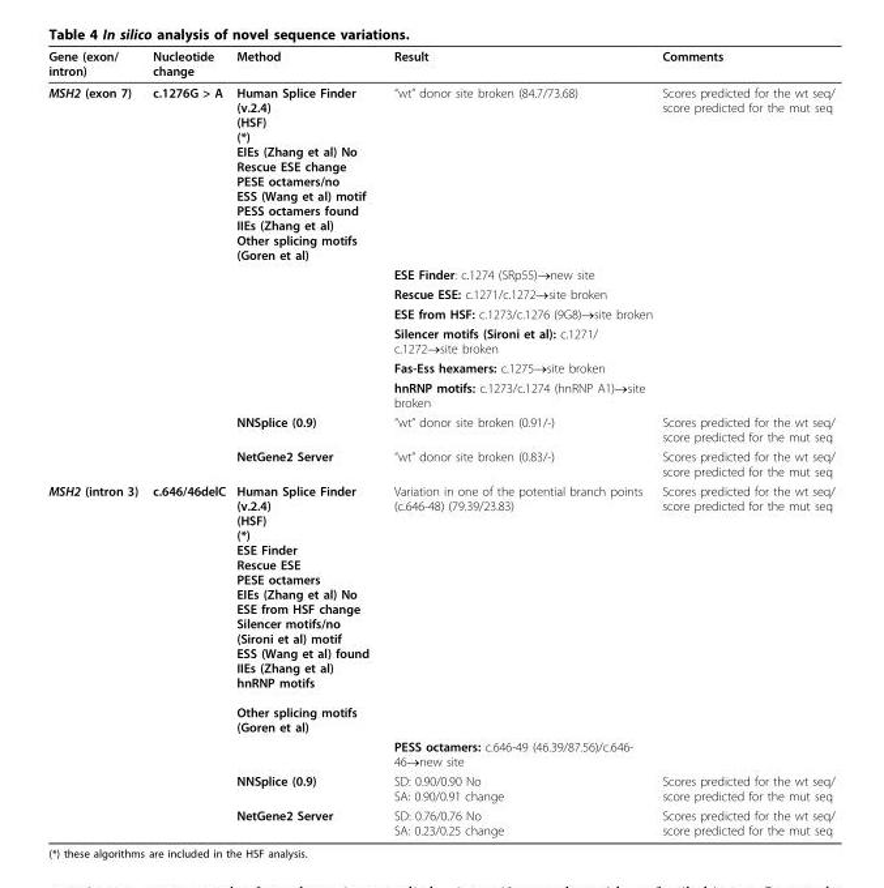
<table><thead><tr><td>Gene (exon/ intron)</td><td>Nucleotide change</td><td>Method</td><td>Result</td><td>Comments</td></tr></thead><tbody><tr><td rowspan="9">MSH2 (exon 7)</td><td>c.1276G &gt; A</td><td>Human Splice Finder (v.2.4) (HSF) (*) EIEs (Zhang et al) No Rescue ESE change PESE octamers/no ESS (Wang et al) motif PESS octamers found IIEs (Zhang et al) Other splicing motifs (Goren et al)</td><td>“wt” donor site broken (84.7/73.68)</td><td>Scores predicted for the wt seq/ score predicted for the mut seq</td></tr><tr><td></td><td></td><td>ESE Finder: c.1274 (SRp55)→new site</td><td></td></tr><tr><td></td><td></td><td>Rescue ESE: c.1271/c.1272→site broken</td><td></td></tr><tr><td></td><td></td><td>ESE from HSF: c.1273/c.1276 (9G8)→site broken</td><td></td></tr><tr><td></td><td></td><td>Silencer motifs (Sironi et al): c.1271/ c.1272→site broken</td><td></td></tr><tr><td></td><td></td><td>Fas-Ess hexamers: c.1275→site broken</td><td></td></tr><tr><td></td><td></td><td>hnRNP motifs: c.1273/c.1274 (hnRNP A1)→site broken</td><td></td></tr><tr><td></td><td>NNSplice (0.9)</td><td>“wt” donor site broken (0.91/-)</td><td>Scores predicted for the wt seq/ score predicted for the mut seq</td></tr><tr><td></td><td>NetGene2 Server</td><td>“wt” donor site broken (0.83/-)</td><td>Scores predicted for the wt seq/ score predicted for the mut seq</td></tr><tr><td rowspan="4">MSH2 (intron 3)</td><td>c.646/46delC</td><td>Human Splice Finder (v.2.4) (HSF) (*) ESE Finder Rescue ESE PESE octamers EIEs (Zhang et al) No ESE from HSF change Silencer motifs/no (Sironi et al) motif ESS (Wang et al) found IIEs (Zhang et al) hnRNP motifs Other splicing motifs (Goren et al)</td><td>Variation in one of the potential branch points (c.646-48) (79.39/23.83)</td><td>Scores predicted for the wt seq/ score predicted for the mut seq</td></tr><tr><td></td><td></td><td>PESS octamers: c.646-49 (46.39/87.56)/c.646- 46→new site</td><td></td></tr><tr><td></td><td>NNSplice (0.9)</td><td>SD: 0.90/0.90 No SA: 0.90/0.91 change</td><td>Scores predicted for the wt seq/ score predicted for the mut seq</td></tr><tr><td></td><td>NetGene2 Server</td><td>SD: 0.76/0.76 No SA: 0.23/0.25 change</td><td>Scores predicted for the wt seq/ score predicted for the mut seq</td></tr></tbody></table>